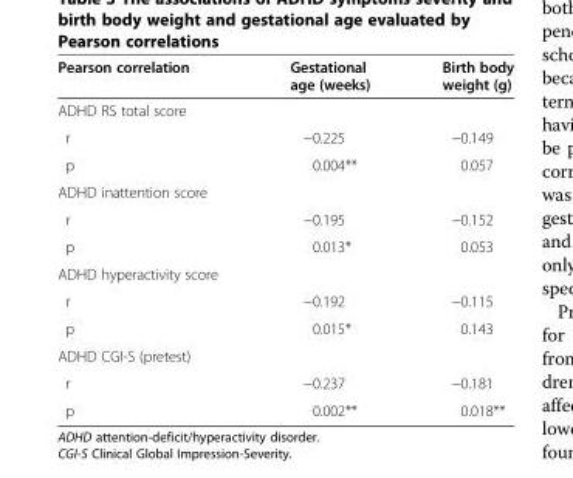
<table><thead><tr><td>Pearson correlation</td><td>Gestational age (weeks)</td><td>Birth body weight (g)</td></tr></thead><tbody><tr><td colspan="3">ADHD RS total score</td></tr><tr><td>r</td><td>−0.225</td><td>−0.149</td></tr><tr><td>p</td><td>0.004**</td><td>0.057</td></tr><tr><td colspan="3">ADHD inattention score</td></tr><tr><td>r</td><td>−0.195</td><td>−0.152</td></tr><tr><td>p</td><td>0.013*</td><td>0.053</td></tr><tr><td colspan="3">ADHD hyperactivity score</td></tr><tr><td>r</td><td>−0.192</td><td>−0.115</td></tr><tr><td>p</td><td>0.015*</td><td>0.143</td></tr><tr><td colspan="3">ADHD CGI-S (pretest)</td></tr><tr><td>r</td><td>−0.237</td><td>−0.181</td></tr><tr><td>p</td><td>0.002**</td><td>0.018**</td></tr></tbody></table>